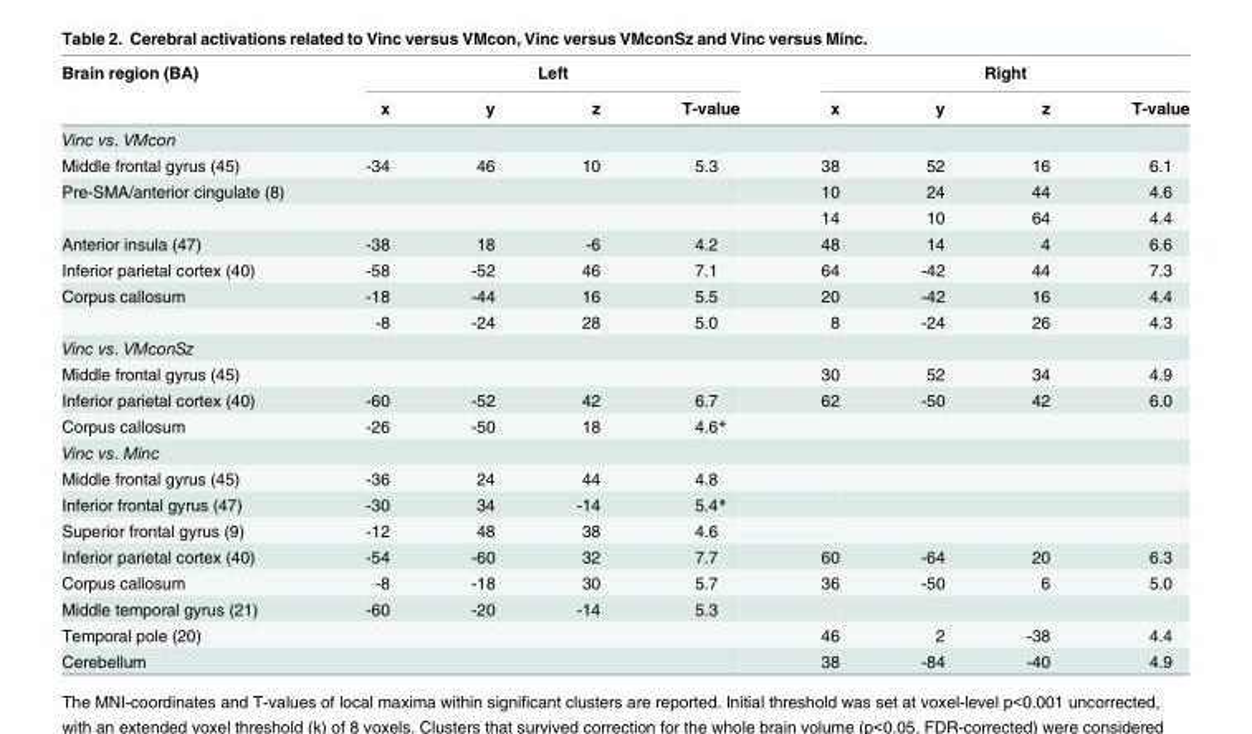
<table><thead><tr><td rowspan="2">Brain region (BA)</td><td colspan="4">Left</td><td colspan="4">Right</td></tr><tr><td>x</td><td>y</td><td>z</td><td>T-value</td><td>x</td><td>y</td><td>z</td><td>T-value</td></tr></thead><tbody><tr><td colspan="9">Vinc vs. VMcon</td></tr><tr><td>Middle frontal gyrus (45)</td><td>-34</td><td>46</td><td>10</td><td>5.3</td><td>38</td><td>52</td><td>16</td><td>6.1</td></tr><tr><td rowspan="2">Pre-SMA/anterior cingulate (8)</td><td></td><td></td><td></td><td></td><td>10</td><td>24</td><td>44</td><td>4.6</td></tr><tr><td></td><td></td><td></td><td></td><td>14</td><td>10</td><td>64</td><td>4.4</td></tr><tr><td>Anterior insula (47)</td><td>-38</td><td>18</td><td>-6</td><td>4.2</td><td>48</td><td>14</td><td>4</td><td>6.6</td></tr><tr><td>Inferior parietal cortex (40)</td><td>-58</td><td>-52</td><td>46</td><td>7.1</td><td>64</td><td>-42</td><td>44</td><td>7.3</td></tr><tr><td rowspan="2">Corpus callosum</td><td>-18</td><td>-44</td><td>16</td><td>5.5</td><td>20</td><td>-42</td><td>16</td><td>4.4</td></tr><tr><td>-8</td><td>-24</td><td>28</td><td>5.0</td><td>8</td><td>-24</td><td>26</td><td>4.3</td></tr><tr><td colspan="9">Vinc vs. VMconSz</td></tr><tr><td>Middle frontal gyrus (45)</td><td></td><td></td><td></td><td></td><td>30</td><td>52</td><td>34</td><td>4.9</td></tr><tr><td>Inferior parietal cortex (40)</td><td>-60</td><td>-52</td><td>42</td><td>6.7</td><td>62</td><td>-50</td><td>42</td><td>6.0</td></tr><tr><td>Corpus callosum</td><td>-26</td><td>-50</td><td>18</td><td>4.6*</td><td></td><td></td><td></td><td></td></tr><tr><td colspan="9">Vinc vs. Minc</td></tr><tr><td>Middle frontal gyrus (45)</td><td>-36</td><td>24</td><td>44</td><td>4.8</td><td></td><td></td><td></td><td></td></tr><tr><td>Inferior frontal gyrus (47)</td><td>-30</td><td>34</td><td>-14</td><td>5.4*</td><td></td><td></td><td></td><td></td></tr><tr><td>Superior frontal gyrus (9)</td><td>-12</td><td>48</td><td>38</td><td>4.6</td><td></td><td></td><td></td><td></td></tr><tr><td>Inferior parietal cortex (40)</td><td>-54</td><td>-60</td><td>32</td><td>7.7</td><td>60</td><td>-64</td><td>20</td><td>6.3</td></tr><tr><td>Corpus callosum</td><td>-8</td><td>-18</td><td>30</td><td>5.7</td><td>36</td><td>-50</td><td>6</td><td>5.0</td></tr><tr><td>Middle temporal gyrus (21)</td><td>-60</td><td>-20</td><td>-14</td><td>5.3</td><td></td><td></td><td></td><td></td></tr><tr><td>Temporal pole (20)</td><td></td><td></td><td></td><td></td><td>46</td><td>2</td><td>-38</td><td>4.4</td></tr><tr><td>Cerebellum</td><td></td><td></td><td></td><td></td><td>38</td><td>-84</td><td>-40</td><td>4.9</td></tr></tbody></table>